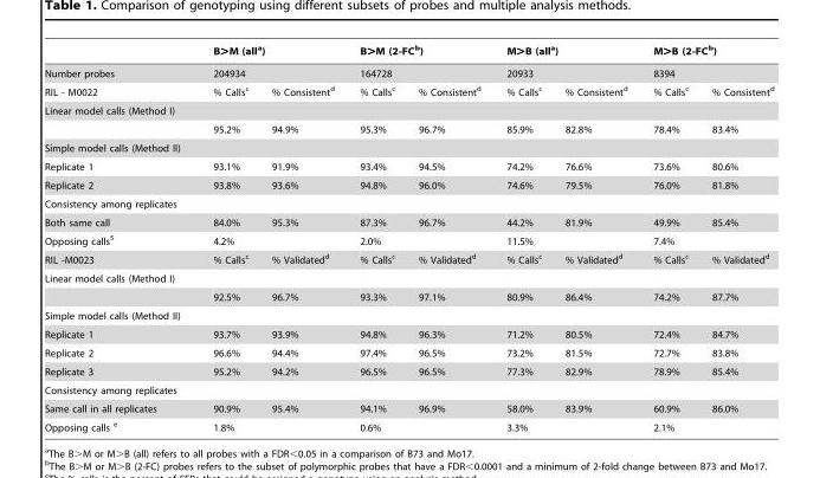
<table><thead><tr><td rowspan="3">Number probes RIL - M0022</td><td rowspan="2" colspan="2">B&gt;M (all<sup>a</sup>) 204934</td><td rowspan="2" colspan="2">B&gt;M (2-FC<sup>b</sup>) 164728</td><td rowspan="2" colspan="2">M&gt;B (all<sup>a</sup>) 20933</td><td rowspan="2" colspan="2">M&gt;B (2-FC<sup>b</sup>) 8394</td></tr><tr></tr><tr><td>% Calls<sup>c</sup></td><td>% Consistent<sup>d</sup></td><td>% Calls<sup>c</sup></td><td>% Consistent<sup>d</sup></td><td>% Calls<sup>c</sup></td><td>% Consistent<sup>d</sup></td><td>% Calls<sup>c</sup></td><td>% Consistent<sup>d</sup></td></tr></thead><tbody><tr><td colspan="9">Linear model calls (Method I)</td></tr><tr><td></td><td>95.2%</td><td>94.9%</td><td>95.3%</td><td>96.7%</td><td>85.9%</td><td>82.8%</td><td>78.4%</td><td>83.4%</td></tr><tr><td colspan="9">Simple model calls (Method II)</td></tr><tr><td>Replicate 1</td><td>93.1%</td><td>91.9%</td><td>93.4%</td><td>94.5%</td><td>74.2%</td><td>76.6%</td><td>73.6%</td><td>80.6%</td></tr><tr><td>Replicate 2</td><td>93.8%</td><td>93.6%</td><td>94.8%</td><td>96.0%</td><td>74.6%</td><td>79.5%</td><td>76.0%</td><td>81.8%</td></tr><tr><td colspan="9">Consistency among replicates</td></tr><tr><td>Both same call</td><td>84.0%</td><td>95.3%</td><td>87.3%</td><td>96.7%</td><td>44.2%</td><td>81.9%</td><td>49.9%</td><td>85.4%</td></tr><tr><td>Opposing calls<sup>5</sup></td><td>4.2%</td><td></td><td>2.0%</td><td></td><td>11.5%</td><td></td><td>7.4%</td><td></td></tr><tr><td>RIL -M0023</td><td>% Calls<sup>c</sup></td><td>% Validated<sup>d</sup></td><td>% Calls<sup>c</sup></td><td>% Validated<sup>d</sup></td><td>% Calls<sup>c</sup></td><td>% Validated<sup>d</sup></td><td>% Calls<sup>c</sup></td><td>% Validated<sup>d</sup></td></tr><tr><td colspan="9">Linear model calls (Method I)</td></tr><tr><td></td><td>92.5%</td><td>96.7%</td><td>93.3%</td><td>97.1%</td><td>80.9%</td><td>86.4%</td><td>74.2%</td><td>87.7%</td></tr><tr><td colspan="9">Simple model calls (Method II)</td></tr><tr><td>Replicate 1</td><td>93.7%</td><td>93.9%</td><td>94.8%</td><td>96.3%</td><td>71.2%</td><td>80.5%</td><td>72.4%</td><td>84.7%</td></tr><tr><td>Replicate 2</td><td>96.6%</td><td>94.4%</td><td>97.4%</td><td>96.5%</td><td>73.2%</td><td>81.5%</td><td>72.7%</td><td>83.8%</td></tr><tr><td>Replicate 3</td><td>95.2%</td><td>94.2%</td><td>96.5%</td><td>96.5%</td><td>77.3%</td><td>82.9%</td><td>78.9%</td><td>85.4%</td></tr><tr><td colspan="9">Consistency among replicates</td></tr><tr><td>Same call in all replicates</td><td>90.9%</td><td>95.4%</td><td>94.1%</td><td>96.9%</td><td>58.0%</td><td>83.9%</td><td>60.9%</td><td>86.0%</td></tr><tr><td>Opposing calls e</td><td>1.8%</td><td></td><td>0.6%</td><td></td><td>3.3%</td><td></td><td>2.1%</td><td></td></tr></tbody></table>